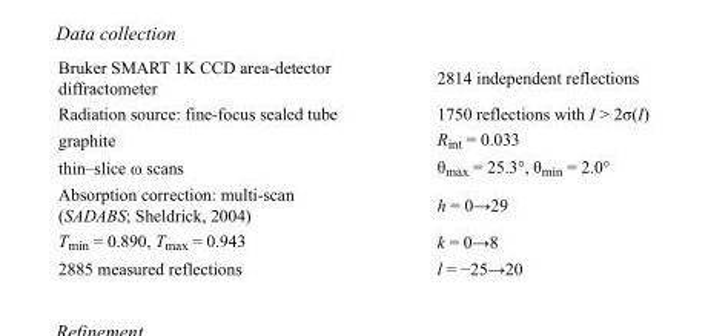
<table><tbody><tr><td>Bruker SMART 1K CCD area-detector diffractometer</td><td>2814 independent reflections</td></tr><tr><td>Radiation source: fine-focus sealed tube</td><td>1750 reflections with I &gt; 2σ(I)</td></tr><tr><td>graphite</td><td>R<sub>int</sub> = 0.033</td></tr><tr><td>thin–slice ω scans</td><td>θ<sub>max</sub> = 25.3°, θ<sub>min</sub> = 2.0°</td></tr><tr><td>Absorption correction: multi-scan (SADABS; Sheldrick, 2004)</td><td>h = 0→29</td></tr><tr><td>T<sub>min</sub> = 0.890, T<sub>max</sub> = 0.943</td><td>k = 0→8</td></tr><tr><td>2885 measured reflections</td><td>l = −25→20</td></tr></tbody></table>